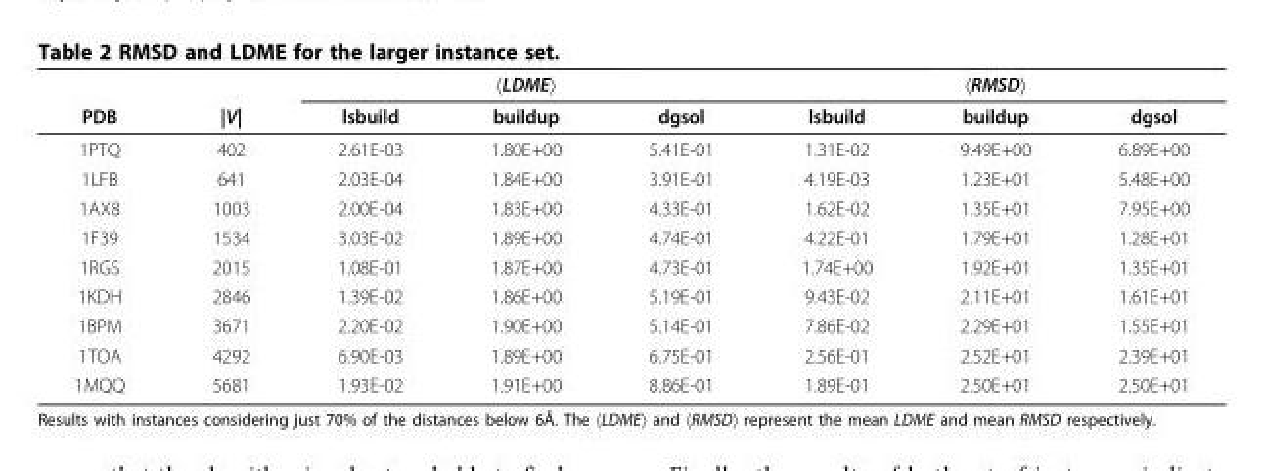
<table><thead><tr><td rowspan="2">PDB</td><td rowspan="2">|V|</td><td colspan="3">〈LDME〉</td><td colspan="3">〈RMSD〉</td></tr><tr><td>lsbuild</td><td>buildup</td><td>dgsol</td><td>lsbuild</td><td>buildup</td><td>dgsol</td></tr></thead><tbody><tr><td>1PTQ</td><td>402</td><td>2.61E-03</td><td>1.80E+00</td><td>5.41E-01</td><td>1.31E-02</td><td>9.49E+00</td><td>6.89E+00</td></tr><tr><td>1LFB</td><td>641</td><td>2.03E-04</td><td>1.84E+00</td><td>3.91E-01</td><td>4.19E-03</td><td>1.23E+01</td><td>5.48E+00</td></tr><tr><td>1AX8</td><td>1003</td><td>2.00E-04</td><td>1.83E+00</td><td>4.33E-01</td><td>1.62E-02</td><td>1.35E+01</td><td>7.95E+00</td></tr><tr><td>1F39</td><td>1534</td><td>3.03E-02</td><td>1.89E+00</td><td>4.74E-01</td><td>4.22E-01</td><td>1.79E+01</td><td>1.28E+01</td></tr><tr><td>1RGS</td><td>2015</td><td>1.08E-01</td><td>1.87E+00</td><td>4.73E-01</td><td>1.74E+00</td><td>1.92E+01</td><td>1.35E+01</td></tr><tr><td>1KDH</td><td>2846</td><td>1.39E-02</td><td>1.86E+00</td><td>5.19E-01</td><td>9.43E-02</td><td>2.11E+01</td><td>1.61E+01</td></tr><tr><td>1BPM</td><td>3671</td><td>2.20E-02</td><td>1.90E+00</td><td>5.14E-01</td><td>7.86E-02</td><td>2.29E+01</td><td>1.55E+01</td></tr><tr><td>1TOA</td><td>4292</td><td>6.90E-03</td><td>1.89E+00</td><td>6.75E-01</td><td>2.56E-01</td><td>2.52E+01</td><td>2.39E+01</td></tr><tr><td>1MQQ</td><td>5681</td><td>1.93E-02</td><td>1.91E+00</td><td>8.86E-01</td><td>1.89E-01</td><td>2.50E+01</td><td>2.50E+01</td></tr></tbody></table>